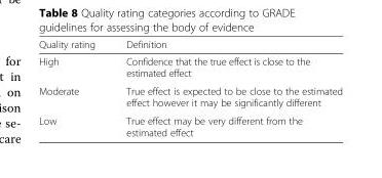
<table><thead><tr><td>Quality rating</td><td>Definition</td></tr></thead><tbody><tr><td>High</td><td>Confidence that the true effect is close to the estimated effect</td></tr><tr><td>Moderate</td><td>True effect is expected to be close to the estimated effect however it may be significantly different</td></tr><tr><td>Low</td><td>True effect may be very different from the estimated effect</td></tr></tbody></table>